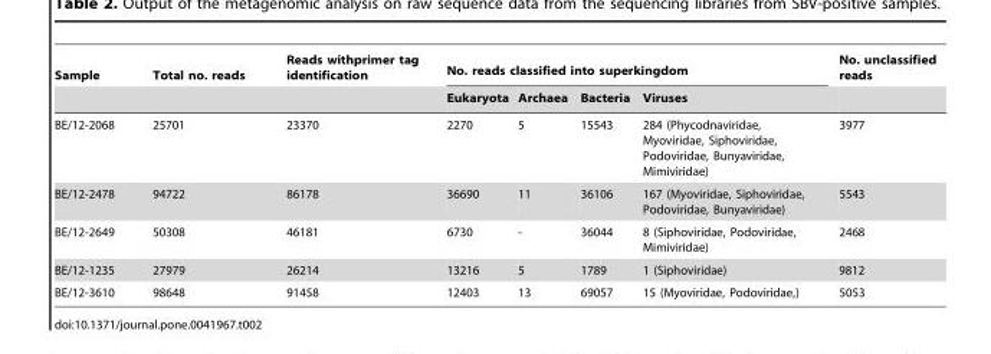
<table><thead><tr><td rowspan="2">Sample</td><td rowspan="2">Total no. reads</td><td rowspan="2">Reads withprimer tag identification</td><td colspan="4">No. reads classified into superkingdom</td><td rowspan="2">No. unclassified reads</td></tr><tr><td>Eukaryota</td><td>Archaea</td><td>Bacteria</td><td>Viruses</td></tr></thead><tbody><tr><td>BE/12-2068</td><td>25701</td><td>23370</td><td>2270</td><td>5</td><td>15543</td><td>284 (Phycodnaviridae, Myoviridae, Siphoviridae, Podoviridae, Bunyaviridae, Mimiviridae)</td><td>3977</td></tr><tr><td>BE/12-2478</td><td>94722</td><td>86178</td><td>36690</td><td>11</td><td>36106</td><td>167 (Myoviridae, Siphoviridae, Podoviridae, Bunyaviridae)</td><td>5543</td></tr><tr><td>BE/12-2649</td><td>50308</td><td>46181</td><td>6730</td><td>-</td><td>36044</td><td>8 (Siphoviridae, Podoviridae, Mimiviridae)</td><td>2468</td></tr><tr><td>BE/12-1235</td><td>27979</td><td>26214</td><td>13216</td><td>5</td><td>1789</td><td>1 (Siphoviridae)</td><td>9812</td></tr><tr><td>BE/12-3610</td><td>98648</td><td>91458</td><td>12403</td><td>13</td><td>69057</td><td>15 (Myoviridae, Podoviridae,)</td><td>5053</td></tr></tbody></table>